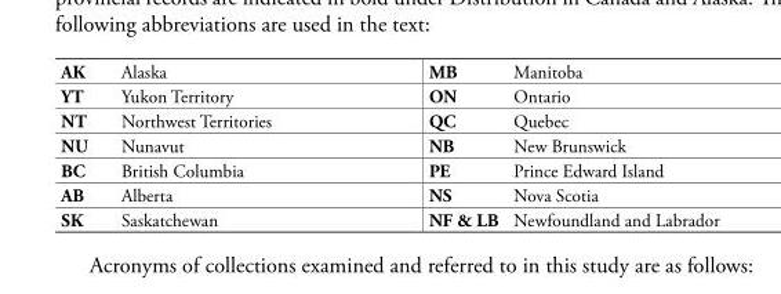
<table><tbody><tr><td>AK</td><td>Alaska</td><td>MB</td><td>Manitoba</td></tr><tr><td>YT</td><td>Yukon Territory</td><td>ON</td><td>Ontario</td></tr><tr><td>NT</td><td>Northwest Territories</td><td>QC</td><td>Quebec</td></tr><tr><td>NU</td><td>Nunavut</td><td>NB</td><td>New Brunswick</td></tr><tr><td>BC</td><td>British Columbia</td><td>PE</td><td>Prince Edward Island</td></tr><tr><td>AB</td><td>Alberta</td><td>NS</td><td>Nova Scotia</td></tr><tr><td>SK</td><td>Saskatchewan</td><td>NF &amp; LB</td><td>Newfoundland and Labrador</td></tr></tbody></table>